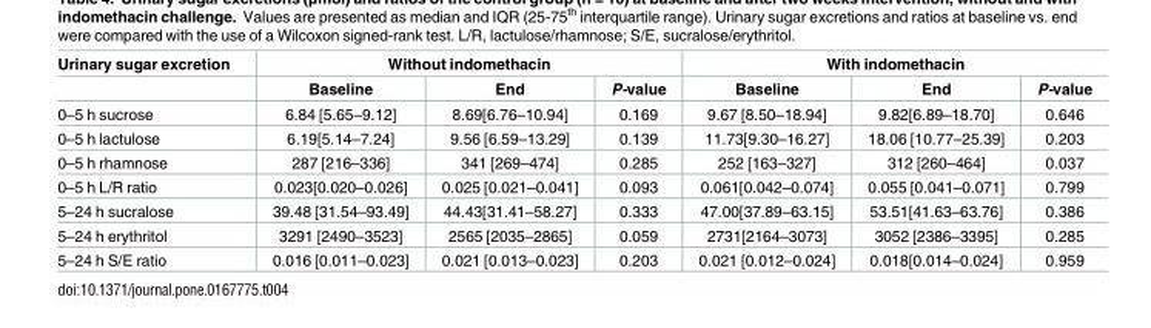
<table><thead><tr><td rowspan="2">Urinary sugar excretion</td><td colspan="3">Without indomethacin</td><td colspan="3">With indomethacin</td></tr><tr><td>Baseline</td><td>End</td><td>P-value</td><td>Baseline</td><td>End</td><td>P-value</td></tr></thead><tbody><tr><td>0–5 h sucrose</td><td>6.84 [5.65–9.12]</td><td>8.69[6.76–10.94]</td><td>0.169</td><td>9.67 [8.50–18.94]</td><td>9.82[6.89–18.70]</td><td>0.646</td></tr><tr><td>0–5 h lactulose</td><td>6.19[5.14–7.24]</td><td>9.56 [6.59–13.29]</td><td>0.139</td><td>11.73[9.30–16.27]</td><td>18.06 [10.77–25.39]</td><td>0.203</td></tr><tr><td>0–5 h rhamnose</td><td>287 [216–336]</td><td>341 [269–474]</td><td>0.285</td><td>252 [163–327]</td><td>312 [260–464]</td><td>0.037</td></tr><tr><td>0–5 h L/R ratio</td><td>0.023[0.020–0.026]</td><td>0.025 [0.021–0.041]</td><td>0.093</td><td>0.061[0.042–0.074]</td><td>0.055 [0.041–0.071]</td><td>0.799</td></tr><tr><td>5–24 h sucralose</td><td>39.48 [31.54–93.49]</td><td>44.43[31.41–58.27]</td><td>0.333</td><td>47.00[37.89–63.15]</td><td>53.51[41.63–63.76]</td><td>0.386</td></tr><tr><td>5–24 h erythritol</td><td>3291 [2490–3523]</td><td>2565 [2035–2865]</td><td>0.059</td><td>2731[2164–3073]</td><td>3052 [2386–3395]</td><td>0.285</td></tr><tr><td>5–24 h S/E ratio</td><td>0.016 [0.011–0.023]</td><td>0.021 [0.013–0.023]</td><td>0.203</td><td>0.021 [0.012–0.024]</td><td>0.018[0.014–0.024]</td><td>0.959</td></tr></tbody></table>